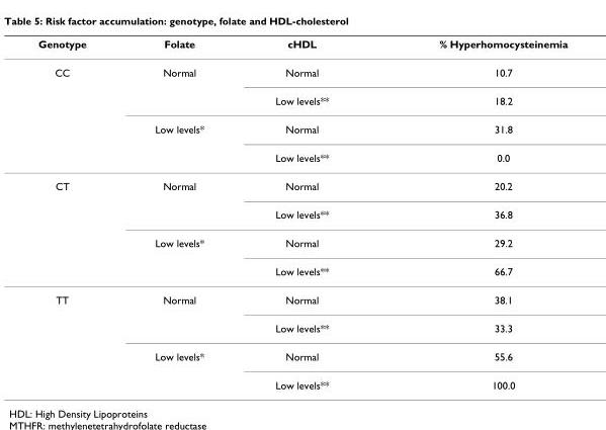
<table><thead><tr><td>Genotype</td><td>Folate</td><td>cHDL</td><td>% Hyperhomocysteinemia</td></tr></thead><tbody><tr><td rowspan="4">CC</td><td>Normal</td><td>Normal</td><td>10.7</td></tr><tr><td></td><td>Low levels**</td><td>18.2</td></tr><tr><td>Low levels*</td><td>Normal</td><td>31.8</td></tr><tr><td></td><td>Low levels**</td><td>0.0</td></tr><tr><td rowspan="4">CT</td><td>Normal</td><td>Normal</td><td>20.2</td></tr><tr><td></td><td>Low levels**</td><td>36.8</td></tr><tr><td>Low levels*</td><td>Normal</td><td>29.2</td></tr><tr><td></td><td>Low levels**</td><td>66.7</td></tr><tr><td rowspan="4">TT</td><td>Normal</td><td>Normal</td><td>38.1</td></tr><tr><td></td><td>Low levels**</td><td>33.3</td></tr><tr><td>Low levels*</td><td>Normal</td><td>55.6</td></tr><tr><td></td><td>Low levels**</td><td>100.0</td></tr></tbody></table>